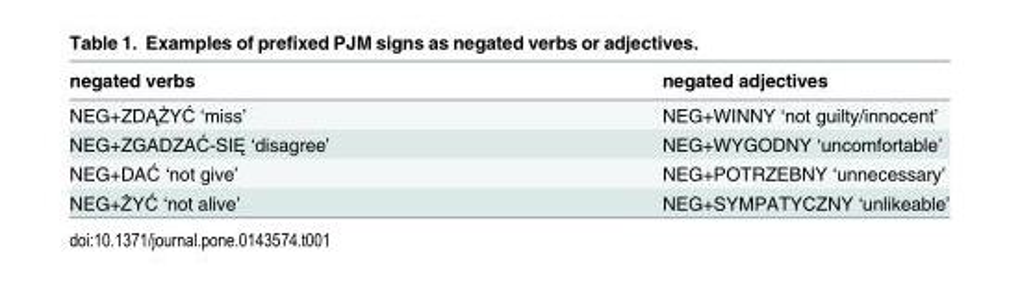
<table><thead><tr><td>negated verbs</td><td>negated adjectives</td></tr></thead><tbody><tr><td>NEG+ZDĄŻYĆ ‘miss’</td><td>NEG+WINNY ‘not guilty/innocent’</td></tr><tr><td>NEG+ZGADZAĆ-SIĘ ‘disagree’</td><td>NEG+WYGODNY ‘uncomfortable’</td></tr><tr><td>NEG+DAĆ ‘not give’</td><td>NEG+POTRZEBNY ‘unnecessary’</td></tr><tr><td>NEG+ŻYĆ ‘not alive’</td><td>NEG+SYMPATYCZNY ‘unlikeable’</td></tr></tbody></table>